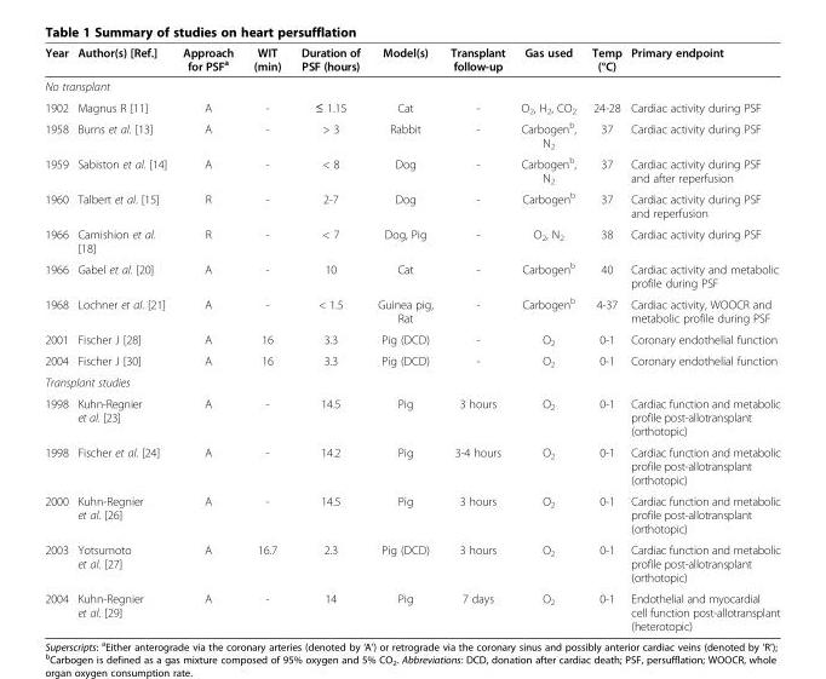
<table><thead><tr><td>Year</td><td>Author(s) [Ref.]</td><td>Approach for PSF<sup>a</sup></td><td>WIT (min)</td><td>Duration of PSF (hours)</td><td>Model(s)</td><td>Transplant follow-up</td><td>Gas used</td><td>Temp (°C)</td><td>Primary endpoint</td></tr></thead><tbody><tr><td colspan="10">No transplant</td></tr><tr><td>1902</td><td>Magnus R [11]</td><td>A</td><td>-</td><td>≤ 1.15</td><td>Cat</td><td>-</td><td>O<sub>2</sub>, H<sub>2</sub>, CO<sub>2</sub></td><td>24-28</td><td>Cardiac activity during PSF</td></tr><tr><td>1958</td><td>Burns et al. [13]</td><td>A</td><td>-</td><td>&gt; 3</td><td>Rabbit</td><td>-</td><td>Carbogen<sup>b</sup>, N<sub>2</sub></td><td>37</td><td>Cardiac activity during PSF</td></tr><tr><td>1959</td><td>Sabiston et al. [14]</td><td>A</td><td>-</td><td>&lt; 8</td><td>Dog</td><td>-</td><td>Carbogen<sup>b</sup>, N<sub>2</sub></td><td>37</td><td>Cardiac activity during PSF and after reperfusion</td></tr><tr><td>1960</td><td>Talbert et al. [15]</td><td>R</td><td>-</td><td>2-7</td><td>Dog</td><td>-</td><td>Carbogen<sup>b</sup></td><td>37</td><td>Cardiac activity during PSF and reperfusion</td></tr><tr><td>1966</td><td>Camishion et al. [18]</td><td>R</td><td>-</td><td>&lt; 7</td><td>Dog, Pig</td><td>-</td><td>O<sub>2</sub>, N<sub>2</sub></td><td>38</td><td>Cardiac activity during PSF</td></tr><tr><td>1966</td><td>Gabel et al. [20]</td><td>A</td><td>-</td><td>10</td><td>Cat</td><td>-</td><td>Carbogen<sup>b</sup></td><td>40</td><td>Cardiac activity and metabolic profile during PSF</td></tr><tr><td>1968</td><td>Lochner et al. [21]</td><td>A</td><td>-</td><td>&lt; 1.5</td><td>Guinea pig, Rat</td><td>-</td><td>Carbogen<sup>b</sup></td><td>4-37</td><td>Cardiac activity, WOOCR and metabolic profile during PSF</td></tr><tr><td>2001</td><td>Fischer J [28]</td><td>A</td><td>16</td><td>3.3</td><td>Pig (DCD)</td><td>-</td><td>O<sub>2</sub></td><td>0-1</td><td>Coronary endothelial function</td></tr><tr><td>2004</td><td>Fischer J [30]</td><td>A</td><td>16</td><td>3.3</td><td>Pig (DCD)</td><td>-</td><td>O<sub>2</sub></td><td>0-1</td><td>Coronary endothelial function</td></tr><tr><td colspan="10">Transplant studies</td></tr><tr><td>1998</td><td>Kuhn-Regnier et al. [23]</td><td>A</td><td>-</td><td>14.5</td><td>Pig</td><td>3 hours</td><td>O<sub>2</sub></td><td>0-1</td><td>Cardiac function and metabolic profile post-allotransplant (orthotopic)</td></tr><tr><td>1998</td><td>Fischer et al. [24]</td><td>A</td><td>-</td><td>14.2</td><td>Pig</td><td>3-4 hours</td><td>O<sub>2</sub></td><td>0-1</td><td>Cardiac function and metabolic profile post-allotransplant (orthotopic)</td></tr><tr><td>2000</td><td>Kuhn-Regnier et al. [26]</td><td>A</td><td>-</td><td>14.5</td><td>Pig</td><td>3 hours</td><td>O<sub>2</sub></td><td>0-1</td><td>Cardiac function and metabolic profile post-allotransplant (orthotopic)</td></tr><tr><td>2003</td><td>Yotsumoto et al. [27]</td><td>A</td><td>16.7</td><td>2.3</td><td>Pig (DCD)</td><td>3 hours</td><td>O<sub>2</sub></td><td>0-1</td><td>Cardiac function and metabolic profile post-allotransplant (orthotopic)</td></tr><tr><td>2004</td><td>Kuhn-Regnier et al. [29]</td><td>A</td><td>-</td><td>14</td><td>Pig</td><td>7 days</td><td>O<sub>2</sub></td><td>0-1</td><td>Endothelial and myocardial cell function post-allotransplant (heterotopic)</td></tr></tbody></table>